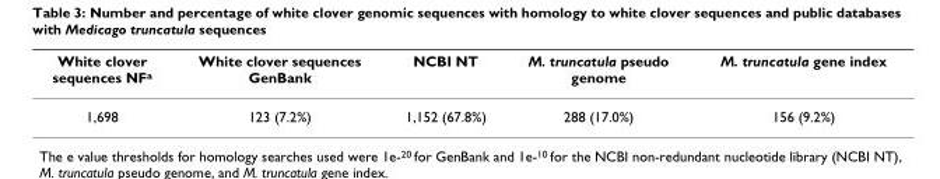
<table><thead><tr><td>White clover sequences NF<sup>a</sup></td><td>White clover sequences GenBank</td><td>NCBI NT</td><td>M. truncatula pseudo genome</td><td>M. truncatula gene index</td></tr></thead><tbody><tr><td>1,698</td><td>123 (7.2%)</td><td>1,152 (67.8%)</td><td>288 (17.0%)</td><td>156 (9.2%)</td></tr></tbody></table>